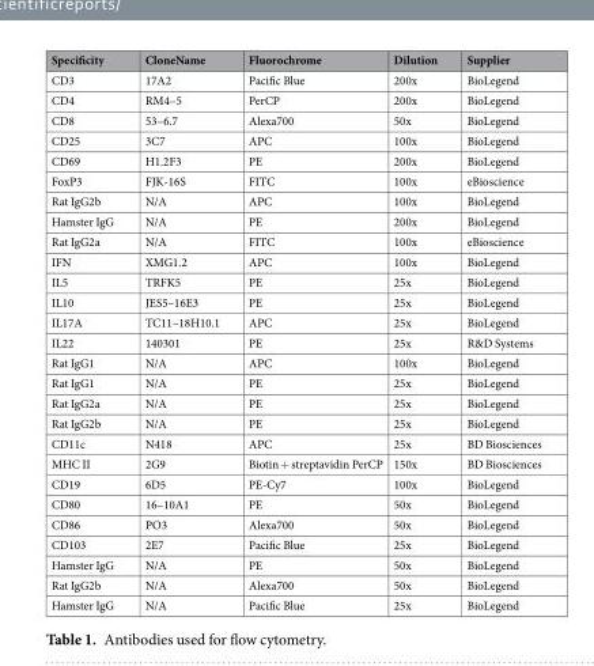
<table><thead><tr><td>Specificity</td><td>CloneName</td><td>Fluorochrome</td><td>Dilution</td><td>Supplier</td></tr></thead><tbody><tr><td>CD3</td><td>17A2</td><td>Pacific Blue</td><td>200x</td><td>BioLegend</td></tr><tr><td>CD4</td><td>RM4–5</td><td>PerCP</td><td>200x</td><td>BioLegend</td></tr><tr><td>CD8</td><td>53–6.7</td><td>Alexa700</td><td>50x</td><td>BioLegend</td></tr><tr><td>CD25</td><td>3C7</td><td>APC</td><td>100x</td><td>BioLegend</td></tr><tr><td>CD69</td><td>H1.2F3</td><td>PE</td><td>200x</td><td>BioLegend</td></tr><tr><td>FoxP3</td><td>FJK-16S</td><td>FITC</td><td>100x</td><td>eBioscience</td></tr><tr><td>Rat IgG2b</td><td>N/A</td><td>APC</td><td>100x</td><td>BioLegend</td></tr><tr><td>Hamster IgG</td><td>N/A</td><td>PE</td><td>200x</td><td>BioLegend</td></tr><tr><td>Rat IgG2a</td><td>N/A</td><td>FITC</td><td>100x</td><td>eBioscience</td></tr><tr><td>IFN</td><td>XMG1.2</td><td>APC</td><td>100x</td><td>BioLegend</td></tr><tr><td>IL5</td><td>TRFK5</td><td>PE</td><td>25x</td><td>BioLegend</td></tr><tr><td>IL10</td><td>JES5–16E3</td><td>PE</td><td>25x</td><td>BioLegend</td></tr><tr><td>IL17A</td><td>TC11–18H10.1</td><td>APC</td><td>25x</td><td>BioLegend</td></tr><tr><td>IL22</td><td>140301</td><td>PE</td><td>25x</td><td>R&amp;D Systems</td></tr><tr><td>Rat IgG1</td><td>N/A</td><td>APC</td><td>100x</td><td>BioLegend</td></tr><tr><td>Rat IgG1</td><td>N/A</td><td>PE</td><td>25x</td><td>BioLegend</td></tr><tr><td>Rat IgG2a</td><td>N/A</td><td>PE</td><td>25x</td><td>BioLegend</td></tr><tr><td>Rat IgG2b</td><td>N/A</td><td>PE</td><td>25x</td><td>BioLegend</td></tr><tr><td>CD11c</td><td>N418</td><td>APC</td><td>25x</td><td>BD Biosciences</td></tr><tr><td>MHC II</td><td>2G9</td><td>Biotin + streptavidin PerCP</td><td>150x</td><td>BD Biosciences</td></tr><tr><td>CD19</td><td>6D5</td><td>PE-Cy7</td><td>100x</td><td>BioLegend</td></tr><tr><td>CD80</td><td>16–10A1</td><td>PE</td><td>50x</td><td>BioLegend</td></tr><tr><td>CD86</td><td>PO3</td><td>Alexa700</td><td>50x</td><td>BioLegend</td></tr><tr><td>CD103</td><td>2E7</td><td>Pacific Blue</td><td>25x</td><td>BioLegend</td></tr><tr><td>Hamster IgG</td><td>N/A</td><td>PE</td><td>50x</td><td>BioLegend</td></tr><tr><td>Rat IgG2b</td><td>N/A</td><td>Alexa700</td><td>50x</td><td>BioLegend</td></tr><tr><td>Hamster IgG</td><td>N/A</td><td>Pacific Blue</td><td>25x</td><td>BioLegend</td></tr></tbody></table>